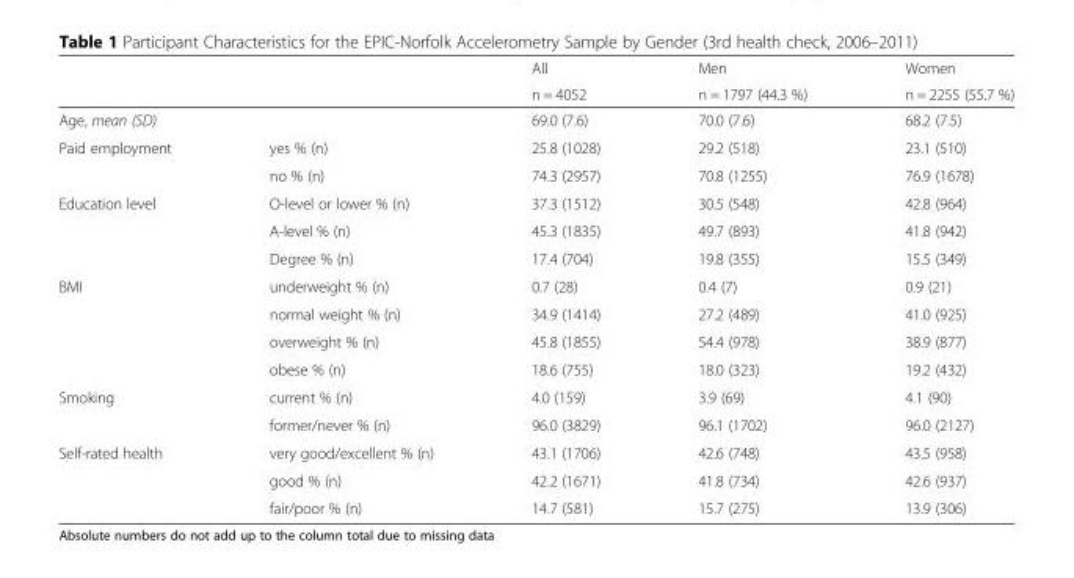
<table><thead><tr><td rowspan="2"></td><td rowspan="2"></td><td rowspan="2">All n = 4052</td><td rowspan="2">Men n = 1797 (44.3 %)</td><td rowspan="2">Women n = 2255 (55.7 %)</td></tr><tr></tr></thead><tbody><tr><td colspan="2">Age, mean (SD)</td><td>69.0 (7.6)</td><td>70.0 (7.6)</td><td>68.2 (7.5)</td></tr><tr><td rowspan="2">Paid employment</td><td>yes % (n)</td><td>25.8 (1028)</td><td>29.2 (518)</td><td>23.1 (510)</td></tr><tr><td>no % (n)</td><td>74.3 (2957)</td><td>70.8 (1255)</td><td>76.9 (1678)</td></tr><tr><td rowspan="3">Education level</td><td>O-level or lower % (n)</td><td>37.3 (1512)</td><td>30.5 (548)</td><td>42.8 (964)</td></tr><tr><td>A-level % (n)</td><td>45.3 (1835)</td><td>49.7 (893)</td><td>41.8 (942)</td></tr><tr><td>Degree % (n)</td><td>17.4 (704)</td><td>19.8 (355)</td><td>15.5 (349)</td></tr><tr><td rowspan="4">BMI</td><td>underweight % (n)</td><td>0.7 (28)</td><td>0.4 (7)</td><td>0.9 (21)</td></tr><tr><td>normal weight % (n)</td><td>34.9 (1414)</td><td>27.2 (489)</td><td>41.0 (925)</td></tr><tr><td>overweight % (n)</td><td>45.8 (1855)</td><td>54.4 (978)</td><td>38.9 (877)</td></tr><tr><td>obese % (n)</td><td>18.6 (755)</td><td>18.0 (323)</td><td>19.2 (432)</td></tr><tr><td rowspan="2">Smoking</td><td>current % (n)</td><td>4.0 (159)</td><td>3.9 (69)</td><td>4.1 (90)</td></tr><tr><td>former/never % (n)</td><td>96.0 (3829)</td><td>96.1 (1702)</td><td>96.0 (2127)</td></tr><tr><td rowspan="3">Self-rated health</td><td>very good/excellent % (n)</td><td>43.1 (1706)</td><td>42.6 (748)</td><td>43.5 (958)</td></tr><tr><td>good % (n)</td><td>42.2 (1671)</td><td>41.8 (734)</td><td>42.6 (937)</td></tr><tr><td>fair/poor % (n)</td><td>14.7 (581)</td><td>15.7 (275)</td><td>13.9 (306)</td></tr></tbody></table>